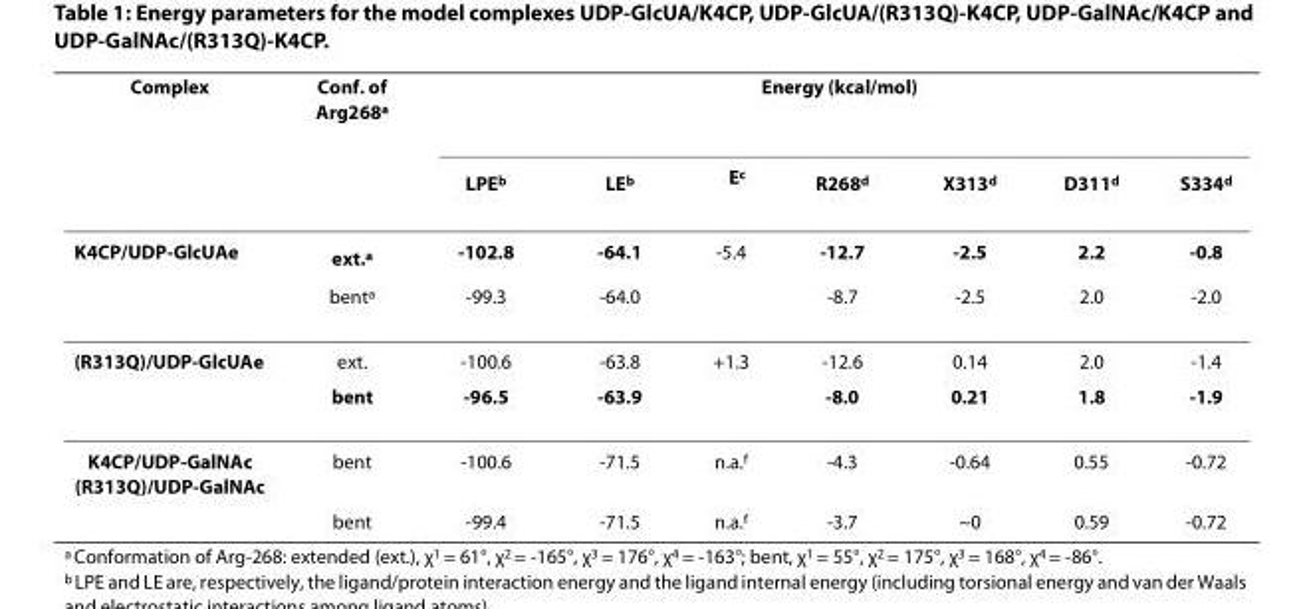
<table><thead><tr><td rowspan="2">Complex</td><td rowspan="2">Conf. of Arg268<sup>a</sup></td><td colspan="7">Energy (kcal/mol)</td></tr><tr><td>LPE<sup>b</sup></td><td>LE<sup>b</sup></td><td>Ec</td><td>R268<sup>d</sup></td><td>X313<sup>d</sup></td><td>D311<sup>d</sup></td><td>S334<sup>d</sup></td></tr></thead><tbody><tr><td rowspan="2">K4CP/UDP-GlcUA<sup>e</sup></td><td>ext.<sup>a</sup></td><td>-102.8</td><td>-64.1</td><td>-5.4</td><td>-12.7</td><td>-2.5</td><td>2.2</td><td>-0.8</td></tr><tr><td>bent<sup>a</sup></td><td>-99.3</td><td>-64.0</td><td></td><td>-8.7</td><td>-2.5</td><td>2.0</td><td>-2.0</td></tr><tr><td rowspan="2">(R313Q)/UDP-GlcUA<sup>e</sup></td><td>ext.</td><td>-100.6</td><td>-63.8</td><td>+1.3</td><td>-12.6</td><td>0.14</td><td>2.0</td><td>-1.4</td></tr><tr><td>bent</td><td>-96.5</td><td>-63.9</td><td></td><td>-8.0</td><td>0.21</td><td>1.8</td><td>-1.9</td></tr><tr><td rowspan="2">K4CP/UDP-GalNAc (R313Q)/UDP-GalNAc</td><td>bent</td><td>-100.6</td><td>-71.5</td><td>n.a.<sup>f</sup></td><td>-4.3</td><td>-0.64</td><td>0.55</td><td>-0.72</td></tr><tr><td>bent</td><td>-99.4</td><td>-71.5</td><td>n.a.<sup>f</sup></td><td>-3.7</td><td>~0</td><td>0.59</td><td>-0.72</td></tr></tbody></table>